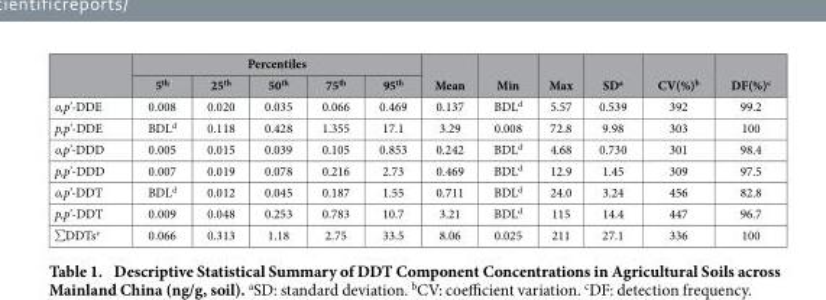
<table><thead><tr><td rowspan="2"></td><td colspan="5">Percentiles</td><td rowspan="2">Mean</td><td rowspan="2">Min</td><td rowspan="2">Max</td><td rowspan="2">SD<sup>a</sup></td><td rowspan="2">CV(%)<sup>b</sup></td><td rowspan="2">DF(%)<sup>c</sup></td></tr><tr><td>5<sup>th</sup></td><td>25<sup>th</sup></td><td>50<sup>th</sup></td><td>75<sup>th</sup></td><td>95<sup>th</sup></td></tr></thead><tbody><tr><td>o,p’-DDE</td><td>0.008</td><td>0.020</td><td>0.035</td><td>0.066</td><td>0.469</td><td>0.137</td><td>BDL<sup>d</sup></td><td>5.57</td><td>0.539</td><td>392</td><td>99.2</td></tr><tr><td>p,p’-DDE</td><td>BDL<sup>d</sup></td><td>0.118</td><td>0.428</td><td>1.355</td><td>17.1</td><td>3.29</td><td>0.008</td><td>72.8</td><td>9.98</td><td>303</td><td>100</td></tr><tr><td>o,p’-DDD</td><td>0.005</td><td>0.015</td><td>0.039</td><td>0.105</td><td>0.853</td><td>0.242</td><td>BDL<sup>d</sup></td><td>4.68</td><td>0.730</td><td>301</td><td>98.4</td></tr><tr><td>p,p’-DDD</td><td>0.007</td><td>0.019</td><td>0.078</td><td>0.216</td><td>2.73</td><td>0.469</td><td>BDL<sup>d</sup></td><td>12.9</td><td>1.45</td><td>309</td><td>97.5</td></tr><tr><td>o,p’-DDT</td><td>BDL<sup>d</sup></td><td>0.012</td><td>0.045</td><td>0.187</td><td>1.55</td><td>0.711</td><td>BDL<sup>d</sup></td><td>24.0</td><td>3.24</td><td>456</td><td>82.8</td></tr><tr><td>p,p’-DDT</td><td>0.009</td><td>0.048</td><td>0.253</td><td>0.783</td><td>10.7</td><td>3.21</td><td>BDL<sup>d</sup></td><td>115</td><td>14.4</td><td>447</td><td>96.7</td></tr><tr><td>∑ DDTs<sup>e</sup></td><td>0.066</td><td>0.313</td><td>1.18</td><td>2.75</td><td>33.5</td><td>8.06</td><td>0.025</td><td>211</td><td>27.1</td><td>336</td><td>100</td></tr></tbody></table>